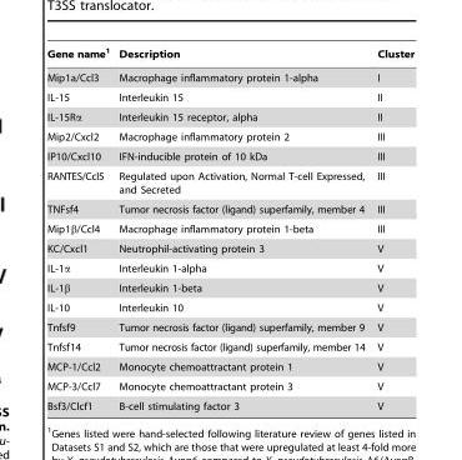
<table><thead><tr><td>Gene name<sup>1</sup></td><td>Description</td><td>Cluster</td></tr></thead><tbody><tr><td>Mip1a/Ccl3</td><td>Macrophage inflammatory protein 1-alpha</td><td>I</td></tr><tr><td>IL-15</td><td>Interleukin 15</td><td>II</td></tr><tr><td>IL-15Rα</td><td>Interleukin 15 receptor, alpha</td><td>II</td></tr><tr><td>Mip2/Cxcl2</td><td>Macrophage inflammatory protein 2</td><td>III</td></tr><tr><td>IP10/Cxcl10</td><td>IFN-inducible protein of 10 kDa</td><td>III</td></tr><tr><td>RANTES/Ccl5</td><td>Regulated upon Activation, Normal T-cell Expressed, and Secreted</td><td>III</td></tr><tr><td>TNFsf4</td><td>Tumor necrosis factor (ligand) superfamily, member 4</td><td>III</td></tr><tr><td>Mip1β/Ccl4</td><td>Macrophage inflammatory protein 1-beta</td><td>III</td></tr><tr><td>KC/Cxcl1</td><td>Neutrophil-activating protein 3</td><td>V</td></tr><tr><td>IL-1α</td><td>Interleukin 1-alpha</td><td>V</td></tr><tr><td>IL-1β</td><td>Interleukin 1-beta</td><td>V</td></tr><tr><td>IL-10</td><td>Interleukin 10</td><td>V</td></tr><tr><td>Tnfsf9</td><td>Tumor necrosis factor (ligand) superfamily, member 9</td><td>V</td></tr><tr><td>Tnfsf14</td><td>Tumor necrosis factor (ligand) superfamily, member 14</td><td>V</td></tr><tr><td>MCP-1/Ccl2</td><td>Monocyte chemoattractant protein 1</td><td>V</td></tr><tr><td>MCP-3/Ccl7</td><td>Monocyte chemoattractant protein 3</td><td>V</td></tr><tr><td>Bsf3/Clcf1</td><td>B-cell stimulating factor 3</td><td>V</td></tr></tbody></table>